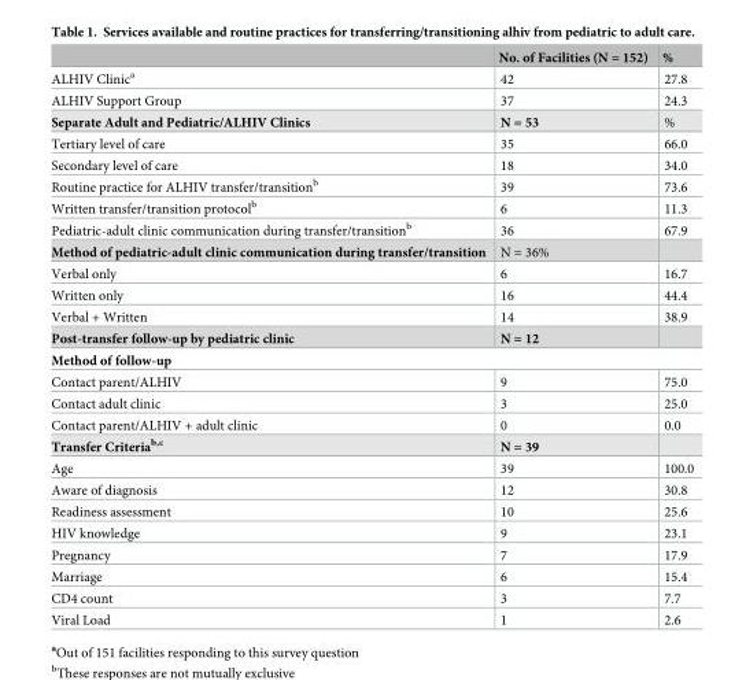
<table><thead><tr><td></td><td>No. of Facilities (N = 152)</td><td>%</td></tr></thead><tbody><tr><td>ALHIV Clinic<sup>a</sup></td><td>42</td><td>27.8</td></tr><tr><td>ALHIV Support Group</td><td>37</td><td>24.3</td></tr><tr><td>Separate Adult and Pediatric/ALHIV Clinics</td><td>N = 53</td><td>%</td></tr><tr><td>Tertiary level of care</td><td>35</td><td>66.0</td></tr><tr><td>Secondary level of care</td><td>18</td><td>34.0</td></tr><tr><td>Routine practice for ALHIV transfer/transition<sup>b</sup></td><td>39</td><td>73.6</td></tr><tr><td>Written transfer/transition protocol<sup>b</sup></td><td>6</td><td>11.3</td></tr><tr><td>Pediatric-adult clinic communication during transfer/transition<sup>b</sup></td><td>36</td><td>67.9</td></tr><tr><td>Method of pediatric-adult clinic communication during transfer/transition</td><td>N = 36%</td><td></td></tr><tr><td>Verbal only</td><td>6</td><td>16.7</td></tr><tr><td>Written only</td><td>16</td><td>44.4</td></tr><tr><td>Verbal + Written</td><td>14</td><td>38.9</td></tr><tr><td>Post-transfer follow-up by pediatric clinic</td><td>N = 12</td><td></td></tr><tr><td colspan="3">Method of follow-up</td></tr><tr><td>Contact parent/ALHIV</td><td>9</td><td>75.0</td></tr><tr><td>Contact adult clinic</td><td>3</td><td>25.0</td></tr><tr><td>Contact parent/ALHIV + adult clinic</td><td>0</td><td>0.0</td></tr><tr><td>Transfer Criteria<sup>b,c</sup></td><td>N = 39</td><td></td></tr><tr><td>Age</td><td>39</td><td>100.0</td></tr><tr><td>Aware of diagnosis</td><td>12</td><td>30.8</td></tr><tr><td>Readiness assessment</td><td>10</td><td>25.6</td></tr><tr><td>HIV knowledge</td><td>9</td><td>23.1</td></tr><tr><td>Pregnancy</td><td>7</td><td>17.9</td></tr><tr><td>Marriage</td><td>6</td><td>15.4</td></tr><tr><td>CD4 count</td><td>3</td><td>7.7</td></tr><tr><td>Viral Load</td><td>1</td><td>2.6</td></tr></tbody></table>